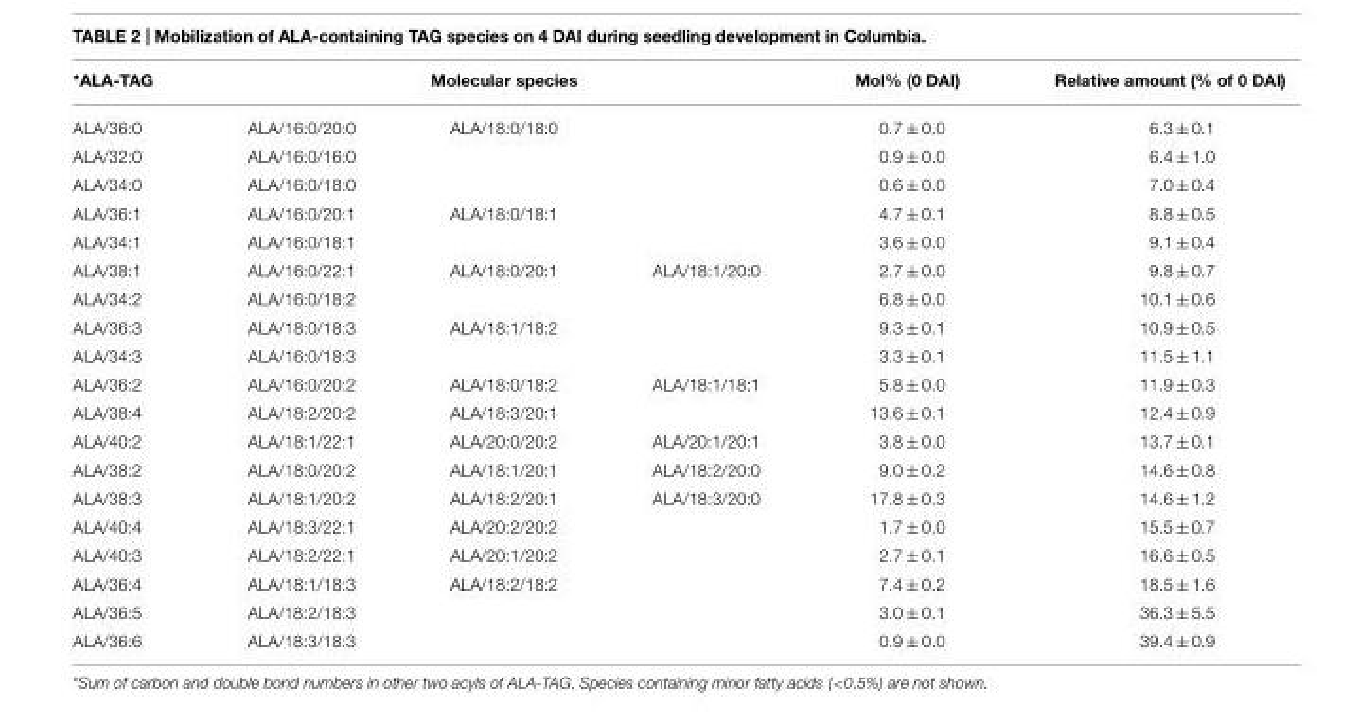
<table><thead><tr><td rowspan="2">*ALA-TAG ALA/36:0</td><td colspan="3">Molecular species</td><td rowspan="2">Mol% (0 DAI) 0.7 ± 0.0</td><td rowspan="2">Relative amount (% of 0 DAI) 6.3 ± 0.1</td></tr><tr><td>ALA/16:0/20:0</td><td>ALA/18:0/18:0</td><td></td></tr></thead><tbody><tr><td>ALA/32:0</td><td>ALA/16:0/16:0</td><td></td><td></td><td>0.9 ± 0.0</td><td>6.4 ± 1.0</td></tr><tr><td>ALA/34:0</td><td>ALA/16:0/18:0</td><td></td><td></td><td>0.6 ± 0.0</td><td>7.0 ± 0.4</td></tr><tr><td>ALA/36:1</td><td>ALA/16:0/20:1</td><td>ALA/18:0/18:1</td><td></td><td>4.7 ± 0.1</td><td>8.8 ± 0.5</td></tr><tr><td>ALA/34:1</td><td>ALA/16:0/18:1</td><td></td><td></td><td>3.6 ± 0.0</td><td>9.1 ± 0.4</td></tr><tr><td>ALA/38:1</td><td>ALA/16:0/22:1</td><td>ALA/18:0/20:1</td><td>ALA/18:1/20:0</td><td>2.7 ± 0.0</td><td>9.8 ± 0.7</td></tr><tr><td>ALA/34:2</td><td>ALA/16:0/18:2</td><td></td><td></td><td>6.8 ± 0.0</td><td>10.1 ± 0.6</td></tr><tr><td>ALA/36:3</td><td>ALA/18:0/18:3</td><td>ALA/18:1/18:2</td><td></td><td>9.3 ± 0.1</td><td>10.9 ± 0.5</td></tr><tr><td>ALA/34:3</td><td>ALA/16:0/18:3</td><td></td><td></td><td>3.3 ± 0.1</td><td>11.5 ± 1.1</td></tr><tr><td>ALA/36:2</td><td>ALA/16:0/20:2</td><td>ALA/18:0/18:2</td><td>ALA/18:1/18:1</td><td>5.8 ± 0.0</td><td>11.9 ± 0.3</td></tr><tr><td>ALA/38:4</td><td>ALA/18:2/20:2</td><td>ALA/18:3/20:1</td><td></td><td>13.6 ± 0.1</td><td>12.4 ± 0.9</td></tr><tr><td>ALA/40:2</td><td>ALA/18:1/22:1</td><td>ALA/20:0/20:2</td><td>ALA/20:1/20:1</td><td>3.8 ± 0.0</td><td>13.7 ± 0.1</td></tr><tr><td>ALA/38:2</td><td>ALA/18:0/20:2</td><td>ALA/18:1/20:1</td><td>ALA/18:2/20:0</td><td>9.0 ± 0.2</td><td>14.6 ± 0.8</td></tr><tr><td>ALA/38:3</td><td>ALA/18:1/20:2</td><td>ALA/18:2/20:1</td><td>ALA/18:3/20:0</td><td>17.8 ± 0.3</td><td>14.6 ± 1.2</td></tr><tr><td>ALA/40:4</td><td>ALA/18:3/22:1</td><td>ALA/20:2/20:2</td><td></td><td>1.7 ± 0.0</td><td>15.5 ± 0.7</td></tr><tr><td>ALA/40:3</td><td>ALA/18:2/22:1</td><td>ALA/20:1/20:2</td><td></td><td>2.7 ± 0.1</td><td>16.6 ± 0.5</td></tr><tr><td>ALA/36:4</td><td>ALA/18:1/18:3</td><td>ALA/18:2/18:2</td><td></td><td>7.4 ± 0.2</td><td>18.5 ± 1.6</td></tr><tr><td>ALA/36:5</td><td>ALA/18:2/18:3</td><td></td><td></td><td>3.0 ± 0.1</td><td>36.3 ± 5.5</td></tr><tr><td>ALA/36:6</td><td>ALA/18:3/18:3</td><td></td><td></td><td>0.9 ± 0.0</td><td>39.4 ± 0.9</td></tr></tbody></table>